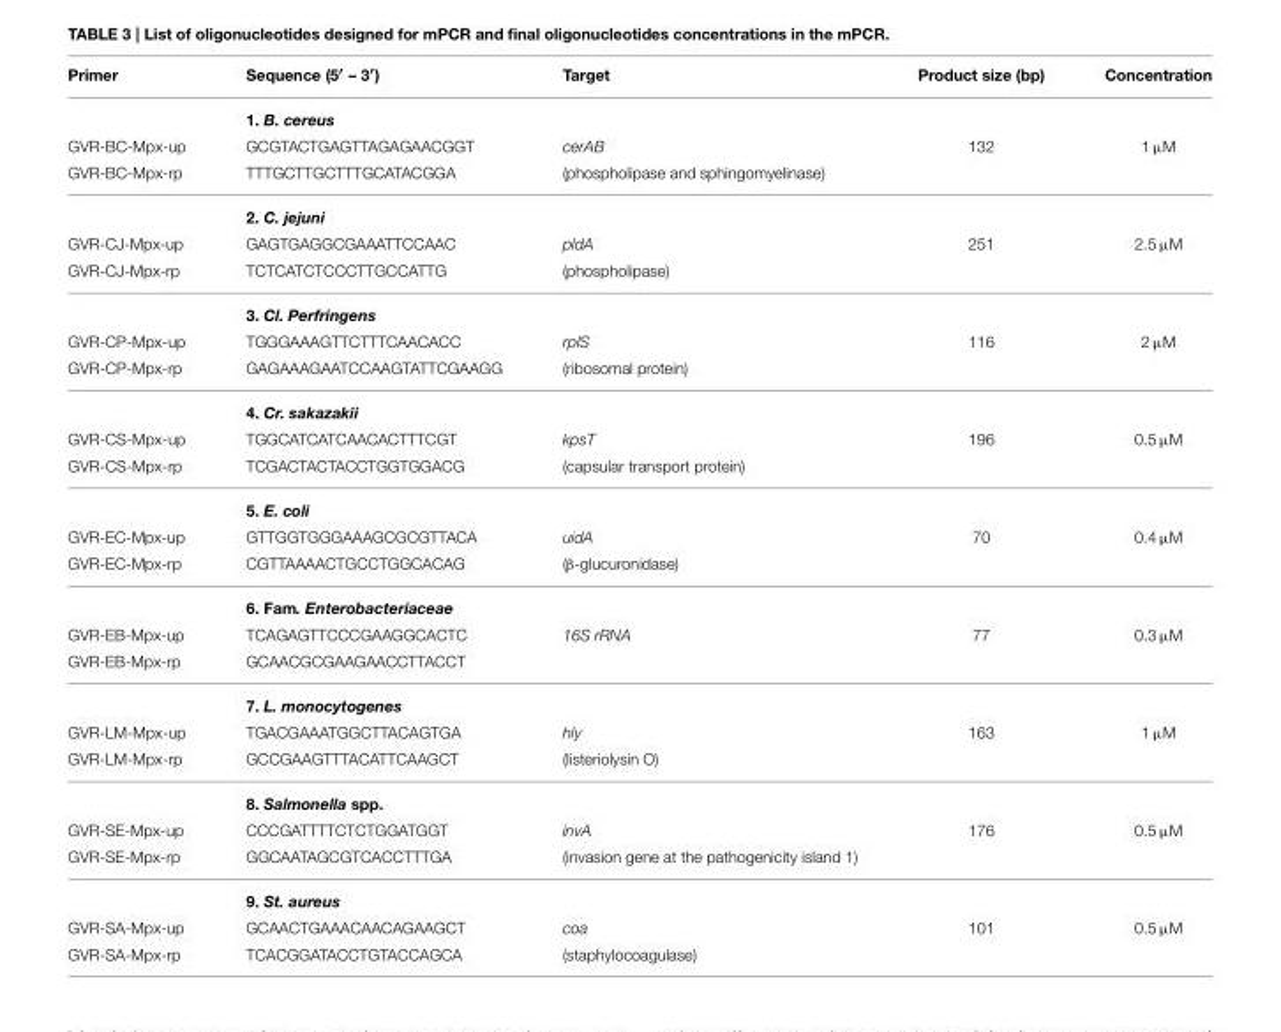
<table><thead><tr><td>Primer</td><td>Sequence (5′ – 3′)</td><td>Target</td><td>Product size (bp)</td><td>Concentration</td></tr></thead><tbody><tr><td></td><td colspan="3">1. B. cereus</td><td></td></tr><tr><td>GVR-BC-Mpx-up</td><td>GCGTACTGAGTTAGAGAACGGT</td><td>cerAB</td><td>132</td><td>1 µM</td></tr><tr><td rowspan="2">GVR-BC-Mpx-rp</td><td>TTTGCTTGCTTTGCATACGGA</td><td>(phospholipase and sphingomyelinase)</td><td></td><td></td></tr><tr><td colspan="3">2. C. jejuni</td><td></td></tr><tr><td>GVR-CJ-Mpx-up</td><td>GAGTGAGGCGAAATTCCAAC</td><td>pldA</td><td>251</td><td>2.5 µM</td></tr><tr><td rowspan="2">GVR-CJ-Mpx-rp</td><td>TCTCATCTCCCTTGCCATTG</td><td>(phospholipase)</td><td></td><td></td></tr><tr><td colspan="3">3. Cl. Perfringens</td><td></td></tr><tr><td>GVR-CP-Mpx-up</td><td>TGGGAAAGTTCTTTCAACACC</td><td>rplS</td><td>116</td><td>2 µM</td></tr><tr><td rowspan="2">GVR-CP-Mpx-rp</td><td>GAGAAAGAATCCAAGTATTCGAAGG</td><td>(ribosomal protein)</td><td></td><td></td></tr><tr><td colspan="3">4. Cr. sakazakii</td><td></td></tr><tr><td>GVR-CS-Mpx-up</td><td>TGGCATCATCAACACTTTCGT</td><td>kpsT</td><td>196</td><td>0.5 µM</td></tr><tr><td rowspan="2">GVR-CS-Mpx-rp</td><td>TCGACTACTACCTGGTGGACG</td><td>(capsular transport protein)</td><td></td><td></td></tr><tr><td colspan="3">5. E. coli</td><td></td></tr><tr><td>GVR-EC-Mpx-up</td><td>GTTGGTGGGAAAGCGCGTTACA</td><td>uidA</td><td>70</td><td>0.4 µM</td></tr><tr><td rowspan="2">GVR-EC-Mpx-rp</td><td>CGTTAAAACTGCCTGGCACAG</td><td>(β-glucuronidase)</td><td></td><td></td></tr><tr><td colspan="3">6. Fam. Enterobacteriaceae</td><td></td></tr><tr><td>GVR-EB-Mpx-up</td><td>TCAGAGTTCCCGAAGGCACTC</td><td>16S rRNA</td><td>77</td><td>0.3 µM</td></tr><tr><td rowspan="2">GVR-EB-Mpx-rp</td><td>GCAACGCGAAGAACCTTACCT</td><td></td><td></td><td></td></tr><tr><td colspan="3">7. L. monocytogenes</td><td></td></tr><tr><td>GVR-LM-Mpx-up</td><td>TGACGAAATGGCTTACAGTGA</td><td>hly</td><td>163</td><td>1 µM</td></tr><tr><td rowspan="2">GVR-LM-Mpx-rp</td><td>GCCGAAGTTTACATTCAAGCT</td><td>(listeriolysin O)</td><td></td><td></td></tr><tr><td colspan="3">8. Salmonella spp.</td><td></td></tr><tr><td>GVR-SE-Mpx-up</td><td>CCCGATTTTCTCTGGATGGT</td><td>invA</td><td>176</td><td>0.5 µM</td></tr><tr><td rowspan="2">GVR-SE-Mpx-rp</td><td>GGCAATAGCGTCACCTTTGA</td><td>(invasion gene at the pathogenicity island 1)</td><td></td><td></td></tr><tr><td colspan="3">9. St. aureus</td><td></td></tr><tr><td>GVR-SA-Mpx-up</td><td>GCAACTGAAACAACAGAAGCT</td><td>coa</td><td>101</td><td>0.5 µM</td></tr><tr><td>GVR-SA-Mpx-rp</td><td>TCACGGATACCTGTACCAGCA</td><td>(staphylocoagulase)</td><td></td><td></td></tr></tbody></table>